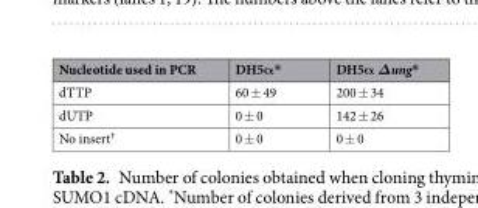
<table><thead><tr><td>Nucleotide used in PCR</td><td>DH5α*</td><td>DH5α Δung*</td></tr></thead><tbody><tr><td>dTTP</td><td>60 ± 49</td><td>200 ± 34</td></tr><tr><td>dUTP</td><td>0 ± 0</td><td>142 ± 26</td></tr><tr><td>No insert<sup>†</sup></td><td>0 ± 0</td><td>0 ± 0</td></tr></tbody></table>